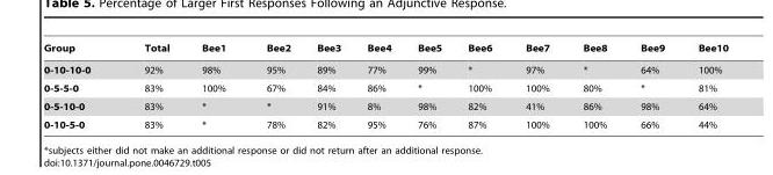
<table><thead><tr><td>Group</td><td>Total</td><td>Bee1</td><td>Bee2</td><td>Bee3</td><td>Bee4</td><td>Bee5</td><td>Bee6</td><td>Bee7</td><td>Bee8</td><td>Bee9</td><td>Bee10</td></tr></thead><tbody><tr><td>0-10-10-0</td><td>92%</td><td>98%</td><td>95%</td><td>89%</td><td>77%</td><td>99%</td><td>*</td><td>97%</td><td>*</td><td>64%</td><td>100%</td></tr><tr><td>0-5-5-0</td><td>83%</td><td>100%</td><td>67%</td><td>84%</td><td>86%</td><td>*</td><td>100%</td><td>100%</td><td>80%</td><td>*</td><td>81%</td></tr><tr><td>0-5-10-0</td><td>83%</td><td>*</td><td>*</td><td>91%</td><td>8%</td><td>98%</td><td>82%</td><td>41%</td><td>86%</td><td>98%</td><td>64%</td></tr><tr><td>0-10-5-0</td><td>83%</td><td>*</td><td>78%</td><td>82%</td><td>95%</td><td>76%</td><td>87%</td><td>100%</td><td>100%</td><td>66%</td><td>44%</td></tr></tbody></table>